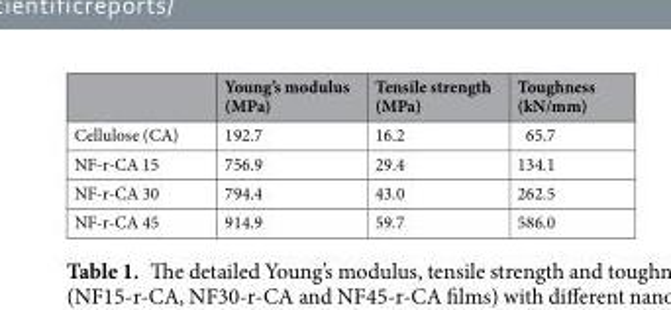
<table><thead><tr><td></td><td>Young’s modulus (MPa)</td><td>Tensile strength (MPa)</td><td>Toughness (kN/mm)</td></tr></thead><tbody><tr><td>Cellulose (CA)</td><td>192.7</td><td>16.2</td><td>65.7</td></tr><tr><td>NF-r-CA 15</td><td>756.9</td><td>29.4</td><td>134.1</td></tr><tr><td>NF-r-CA 30</td><td>794.4</td><td>43.0</td><td>262.5</td></tr><tr><td>NF-r-CA 45</td><td>914.9</td><td>59.7</td><td>586.0</td></tr></tbody></table>